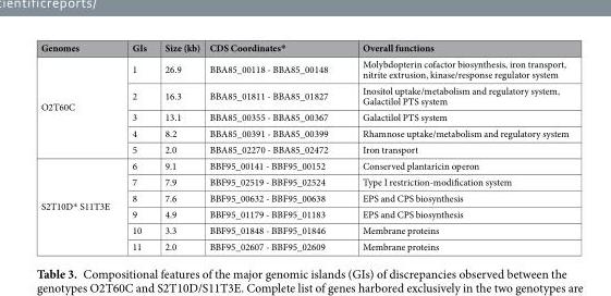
<table><thead><tr><td>Genomes</td><td>GIs</td><td>Size (kb)</td><td>CDS Coordinates*</td><td>Overall functions</td></tr></thead><tbody><tr><td rowspan="5">O2T60C</td><td>1</td><td>26.9</td><td>BBA85_00118 - BBA85_00148</td><td>Molybdopterin cofactor biosynthesis, iron transport, nitrite extrusion, kinase/response regulator system</td></tr><tr><td>2</td><td>16.3</td><td>BBA85_01811 - BBA85_01827</td><td>Inositol uptake/metabolism and regulatory system, Galactilol PTS system</td></tr><tr><td>3</td><td>13.1</td><td>BBA85_00355 - BBA85_00367</td><td>Galactilol PTS system</td></tr><tr><td>4</td><td>8.2</td><td>BBA85_00391 - BBA85_00399</td><td>Rhamnose uptake/metabolism and regulatory system</td></tr><tr><td>5</td><td>2.0</td><td>BBA85_02270 - BBA85_02472</td><td>Iron transport</td></tr><tr><td rowspan="6">S2T10D* S11T3E</td><td>6</td><td>9.1</td><td>BBF95_00141 - BBF95_00152</td><td>Conserved plantaricin operon</td></tr><tr><td>7</td><td>7.9</td><td>BBF95_02519 - BBF95_02524</td><td>Type I restriction-modification system</td></tr><tr><td>8</td><td>7.6</td><td>BBF95_00632 - BBF95_00638</td><td>EPS and CPS biosynthesis</td></tr><tr><td>9</td><td>4.9</td><td>BBF95_01179 - BBF95_01183</td><td>EPS and CPS biosynthesis</td></tr><tr><td>10</td><td>3.3</td><td>BBF95_01848 - BBF95_01846</td><td>Membrane proteins</td></tr><tr><td>11</td><td>2.0</td><td>BBF95_02607 - BBF95_02609</td><td>Membrane proteins</td></tr></tbody></table>